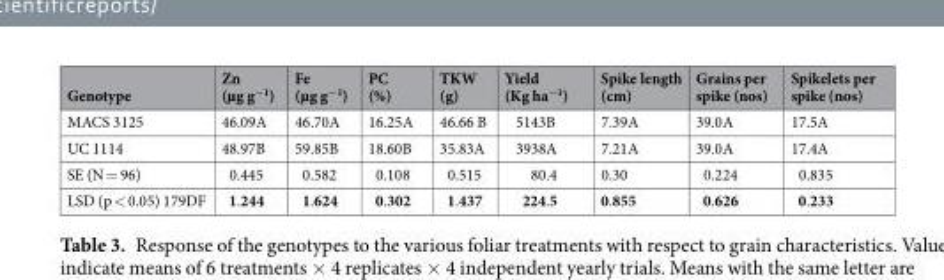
<table><thead><tr><td>Genotype</td><td>Zn (µg g<sup>−1</sup>)</td><td>Fe (µg g<sup>−1</sup>)</td><td>PC (%)</td><td>TKW (g)</td><td>Yield (Kg ha<sup>−1</sup>)</td><td>Spike length (cm)</td><td>Grains per spike (nos)</td><td>Spikelets per spike (nos)</td></tr></thead><tbody><tr><td>MACS 3125</td><td>46.09A</td><td>46.70A</td><td>16.25A</td><td>46.66 B</td><td>5143B</td><td>7.39A</td><td>39.0A</td><td>17.5A</td></tr><tr><td>UC 1114</td><td>48.97B</td><td>59.85B</td><td>18.60B</td><td>35.83A</td><td>3938A</td><td>7.21A</td><td>39.0A</td><td>17.4A</td></tr><tr><td>SE (N = 96)</td><td>0.445</td><td>0.582</td><td>0.108</td><td>0.515</td><td>80.4</td><td>0.30</td><td>0.224</td><td>0.835</td></tr><tr><td>LSD (p &lt; 0.05) 179DF</td><td>1.244</td><td>1.624</td><td>0.302</td><td>1.437</td><td>224.5</td><td>0.855</td><td>0.626</td><td>0.233</td></tr></tbody></table>